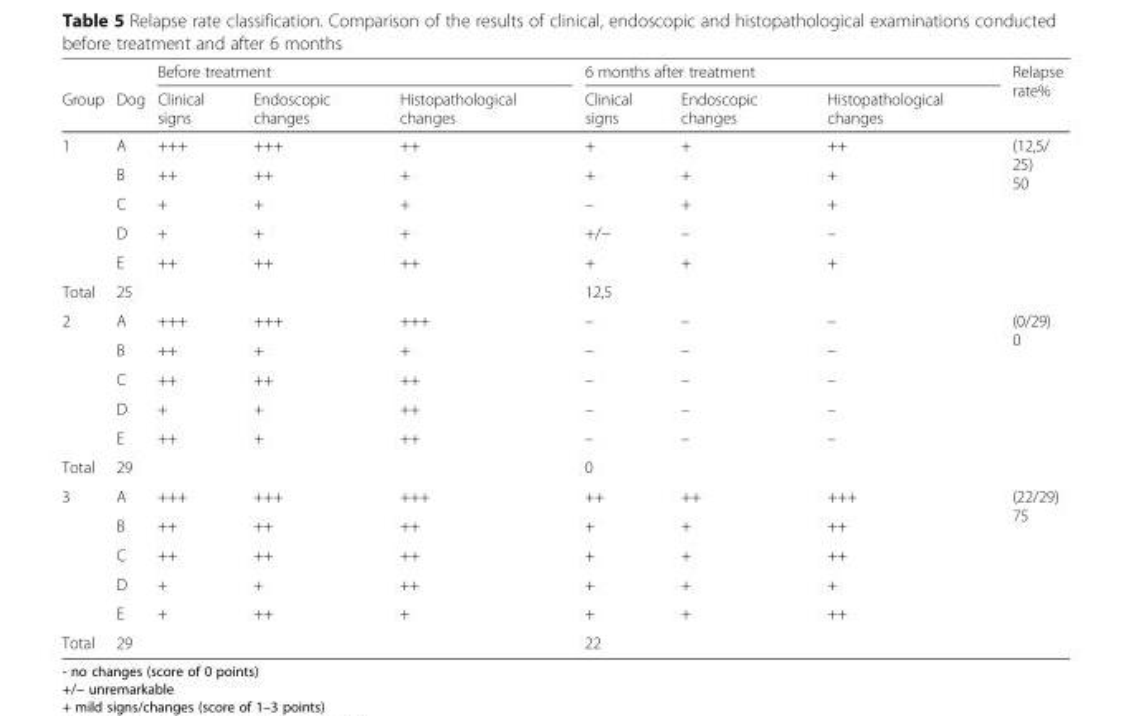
<table><thead><tr><td rowspan="2">Group</td><td rowspan="2">Dog</td><td colspan="3">Before treatment</td><td colspan="3">6 months after treatment</td><td rowspan="2">Relapse rate%</td></tr><tr><td>Clinical signs</td><td>Endoscopic changes</td><td>Histopathological changes</td><td>Clinical signs</td><td>Endoscopic changes</td><td>Histopathological changes</td></tr></thead><tbody><tr><td rowspan="5">1</td><td>A</td><td>+++</td><td>+++</td><td>++</td><td>+</td><td>+</td><td>++</td><td rowspan="6">(12,5/ 25) 50</td></tr><tr><td>B</td><td>++</td><td>++</td><td>+</td><td>+</td><td>+</td><td>+</td></tr><tr><td>C</td><td>+</td><td>+</td><td>+</td><td>–</td><td>+</td><td>+</td></tr><tr><td>D</td><td>+</td><td>+</td><td>+</td><td>+/−</td><td>–</td><td>–</td></tr><tr><td>E</td><td>++</td><td>++</td><td>++</td><td>+</td><td>+</td><td>+</td></tr><tr><td>Total</td><td colspan="4">25</td><td colspan="3">12,5</td></tr><tr><td rowspan="5">2</td><td>A</td><td>+++</td><td>+++</td><td>+++</td><td>–</td><td>–</td><td>–</td><td rowspan="6">(0/29) 0</td></tr><tr><td>B</td><td>++</td><td>+</td><td>+</td><td>–</td><td>–</td><td>–</td></tr><tr><td>C</td><td>++</td><td>++</td><td>++</td><td>–</td><td>–</td><td>–</td></tr><tr><td>D</td><td>+</td><td>+</td><td>++</td><td>–</td><td>–</td><td>–</td></tr><tr><td>E</td><td>++</td><td>+</td><td>++</td><td>–</td><td>–</td><td>–</td></tr><tr><td>Total</td><td colspan="4">29</td><td colspan="3">0</td></tr><tr><td rowspan="5">3</td><td>A</td><td>+++</td><td>+++</td><td>+++</td><td>++</td><td>++</td><td>+++</td><td rowspan="6">(22/29) 75</td></tr><tr><td>B</td><td>++</td><td>++</td><td>++</td><td>+</td><td>+</td><td>++</td></tr><tr><td>C</td><td>++</td><td>++</td><td>++</td><td>+</td><td>+</td><td>++</td></tr><tr><td>D</td><td>+</td><td>+</td><td>++</td><td>+</td><td>+</td><td>+</td></tr><tr><td>E</td><td>+</td><td>++</td><td>+</td><td>+</td><td>+</td><td>++</td></tr><tr><td>Total</td><td colspan="4">29</td><td colspan="3">22</td></tr></tbody></table>